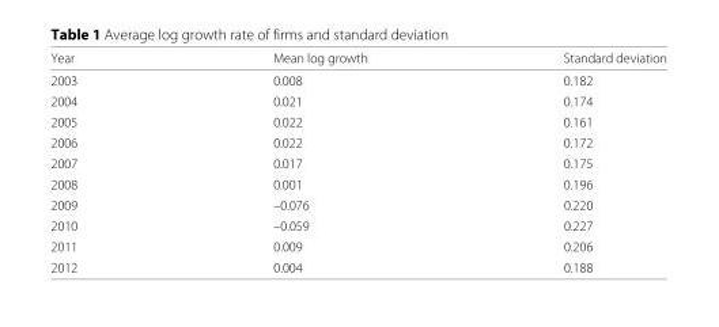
<table><thead><tr><td>Year</td><td>Mean log growth</td><td>Standard deviation</td></tr></thead><tbody><tr><td>2003</td><td>0.008</td><td>0.182</td></tr><tr><td>2004</td><td>0.021</td><td>0.174</td></tr><tr><td>2005</td><td>0.022</td><td>0.161</td></tr><tr><td>2006</td><td>0.022</td><td>0.172</td></tr><tr><td>2007</td><td>0.017</td><td>0.175</td></tr><tr><td>2008</td><td>0.001</td><td>0.196</td></tr><tr><td>2009</td><td>–0.076</td><td>0.220</td></tr><tr><td>2010</td><td>–0.059</td><td>0.227</td></tr><tr><td>2011</td><td>0.009</td><td>0.206</td></tr><tr><td>2012</td><td>0.004</td><td>0.188</td></tr></tbody></table>